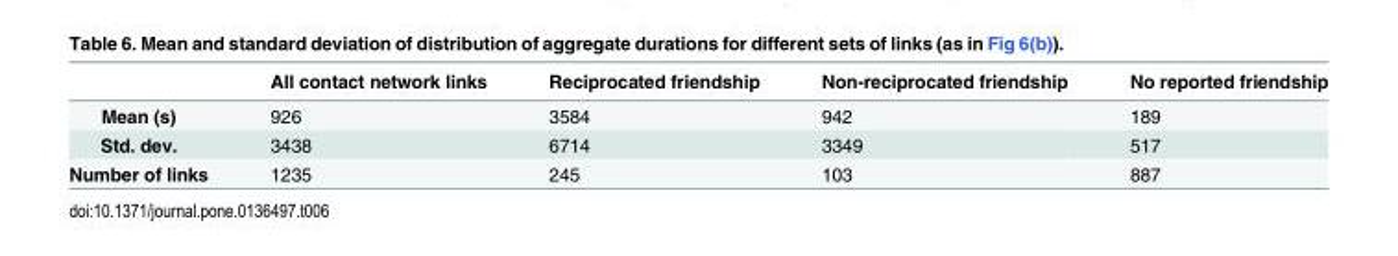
<table><thead><tr><td></td><td>All contact network links</td><td>Reciprocated friendship</td><td>Non-reciprocated friendship</td><td>No reported friendship</td></tr></thead><tbody><tr><td>Mean (s)</td><td>926</td><td>3584</td><td>942</td><td>189</td></tr><tr><td>Std. dev.</td><td>3438</td><td>6714</td><td>3349</td><td>517</td></tr><tr><td>Number of links</td><td>1235</td><td>245</td><td>103</td><td>887</td></tr></tbody></table>